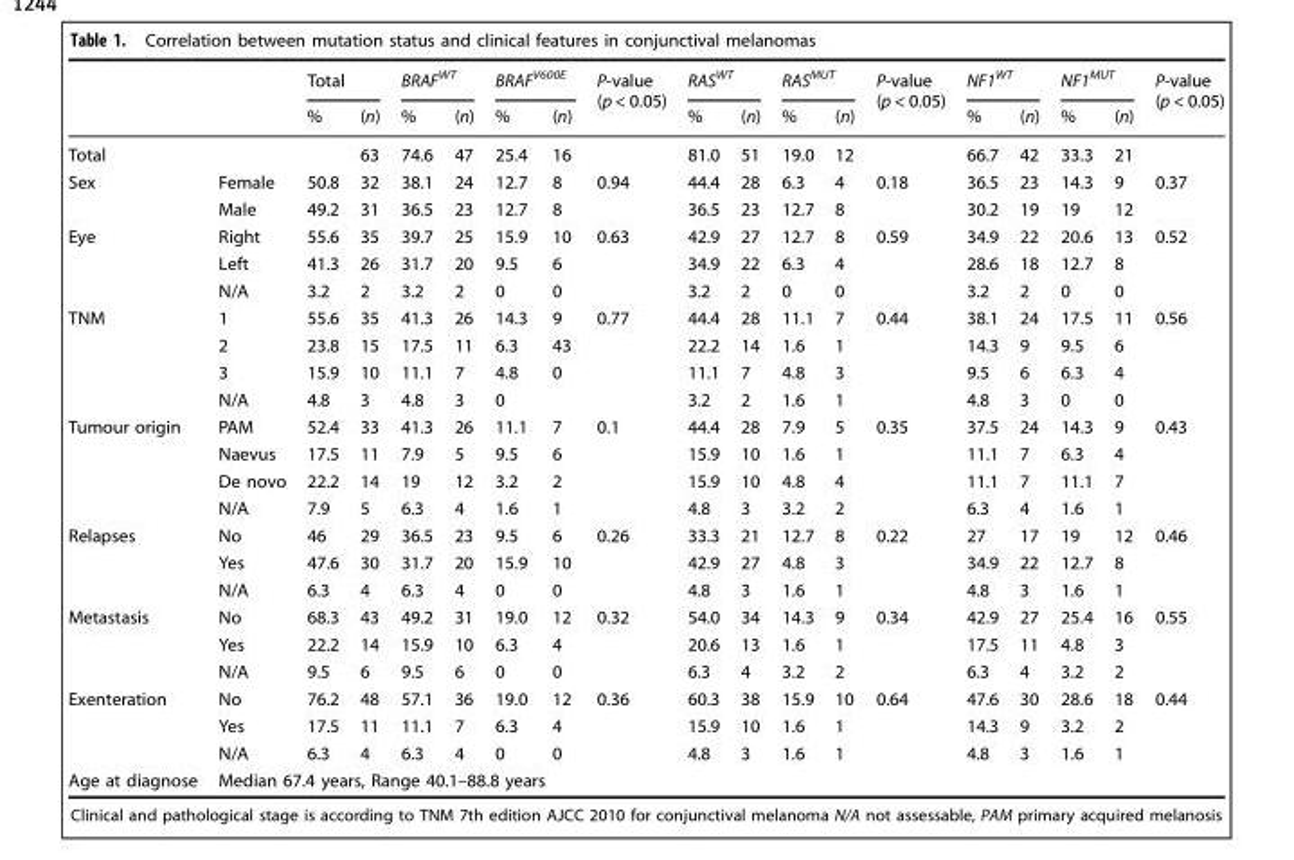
<table><thead><tr><td rowspan="2"></td><td rowspan="2"></td><td colspan="2">Total</td><td colspan="2">BRAF<sup>WT</sup></td><td colspan="2">BRAF<sup>V600E</sup></td><td rowspan="2">P-value (p &lt; 0.05)</td><td colspan="2">RAS<sup>WT</sup></td><td colspan="2">RAS<sup>MUT</sup></td><td rowspan="2">P-value (p &lt; 0.05)</td><td colspan="2">NF1<sup>WT</sup></td><td colspan="2">NF1<sup>MUT</sup></td><td rowspan="2">P-value (p &lt; 0.05)</td></tr><tr><td>%</td><td>(n)</td><td>%</td><td>(n)</td><td>%</td><td>(n)</td><td>%</td><td>(n)</td><td>%</td><td>(n)</td><td>%</td><td>(n)</td><td>%</td><td>(n)</td></tr></thead><tbody><tr><td>Total</td><td></td><td></td><td>63</td><td>74.6</td><td>47</td><td>25.4</td><td>16</td><td></td><td>81.0</td><td>51</td><td>19.0</td><td>12</td><td></td><td>66.7</td><td>42</td><td>33.3</td><td>21</td><td></td></tr><tr><td rowspan="2">Sex</td><td>Female</td><td>50.8</td><td>32</td><td>38.1</td><td>24</td><td>12.7</td><td>8</td><td rowspan="2">0.94</td><td>44.4</td><td>28</td><td>6.3</td><td>4</td><td rowspan="2">0.18</td><td>36.5</td><td>23</td><td>14.3</td><td>9</td><td rowspan="2">0.37</td></tr><tr><td>Male</td><td>49.2</td><td>31</td><td>36.5</td><td>23</td><td>12.7</td><td>8</td><td>36.5</td><td>23</td><td>12.7</td><td>8</td><td>30.2</td><td>19</td><td>19</td><td>12</td></tr><tr><td rowspan="3">Eye</td><td>Right</td><td>55.6</td><td>35</td><td>39.7</td><td>25</td><td>15.9</td><td>10</td><td rowspan="3">0.63</td><td>42.9</td><td>27</td><td>12.7</td><td>8</td><td rowspan="3">0.59</td><td>34.9</td><td>22</td><td>20.6</td><td>13</td><td rowspan="3">0.52</td></tr><tr><td>Left</td><td>41.3</td><td>26</td><td>31.7</td><td>20</td><td>9.5</td><td>6</td><td>34.9</td><td>22</td><td>6.3</td><td>4</td><td>28.6</td><td>18</td><td>12.7</td><td>8</td></tr><tr><td>N/A</td><td>3.2</td><td>2</td><td>3.2</td><td>2</td><td>0</td><td>0</td><td>3.2</td><td>2</td><td>0</td><td>0</td><td>3.2</td><td>2</td><td>0</td><td>0</td></tr><tr><td rowspan="4">TNM</td><td>1</td><td>55.6</td><td>35</td><td>41.3</td><td>26</td><td>14.3</td><td>9</td><td rowspan="4">0.77</td><td>44.4</td><td>28</td><td>11.1</td><td>7</td><td rowspan="4">0.44</td><td>38.1</td><td>24</td><td>17.5</td><td>11</td><td rowspan="4">0.56</td></tr><tr><td>2</td><td>23.8</td><td>15</td><td>17.5</td><td>11</td><td>6.3</td><td>43</td><td>22.2</td><td>14</td><td>1.6</td><td>1</td><td>14.3</td><td>9</td><td>9.5</td><td>6</td></tr><tr><td>3</td><td>15.9</td><td>10</td><td>11.1</td><td>7</td><td>4.8</td><td>0</td><td>11.1</td><td>7</td><td>4.8</td><td>3</td><td>9.5</td><td>6</td><td>6.3</td><td>4</td></tr><tr><td>N/A</td><td>4.8</td><td>3</td><td>4.8</td><td>3</td><td>0</td><td></td><td>3.2</td><td>2</td><td>1.6</td><td>1</td><td>4.8</td><td>3</td><td>0</td><td>0</td></tr><tr><td rowspan="4">Tumour origin</td><td>PAM</td><td>52.4</td><td>33</td><td>41.3</td><td>26</td><td>11.1</td><td>7</td><td rowspan="4">0.1</td><td>44.4</td><td>28</td><td>7.9</td><td>5</td><td rowspan="4">0.35</td><td>37.5</td><td>24</td><td>14.3</td><td>9</td><td rowspan="4">0.43</td></tr><tr><td>Naevus</td><td>17.5</td><td>11</td><td>7.9</td><td>5</td><td>9.5</td><td>6</td><td>15.9</td><td>10</td><td>1.6</td><td>1</td><td>11.1</td><td>7</td><td>6.3</td><td>4</td></tr><tr><td>De novo</td><td>22.2</td><td>14</td><td>19</td><td>12</td><td>3.2</td><td>2</td><td>15.9</td><td>10</td><td>4.8</td><td>4</td><td>11.1</td><td>7</td><td>11.1</td><td>7</td></tr><tr><td>N/A</td><td>7.9</td><td>5</td><td>6.3</td><td>4</td><td>1.6</td><td>1</td><td>4.8</td><td>3</td><td>3.2</td><td>2</td><td>6.3</td><td>4</td><td>1.6</td><td>1</td></tr><tr><td rowspan="3">Relapses</td><td>No</td><td>46</td><td>29</td><td>36.5</td><td>23</td><td>9.5</td><td>6</td><td rowspan="3">0.26</td><td>33.3</td><td>21</td><td>12.7</td><td>8</td><td rowspan="3">0.22</td><td>27</td><td>17</td><td>19</td><td>12</td><td rowspan="3">0.46</td></tr><tr><td>Yes</td><td>47.6</td><td>30</td><td>31.7</td><td>20</td><td>15.9</td><td>10</td><td>42.9</td><td>27</td><td>4.8</td><td>3</td><td>34.9</td><td>22</td><td>12.7</td><td>8</td></tr><tr><td>N/A</td><td>6.3</td><td>4</td><td>6.3</td><td>4</td><td>0</td><td>0</td><td>4.8</td><td>3</td><td>1.6</td><td>1</td><td>4.8</td><td>3</td><td>1.6</td><td>1</td></tr><tr><td rowspan="3">Metastasis</td><td>No</td><td>68.3</td><td>43</td><td>49.2</td><td>31</td><td>19.0</td><td>12</td><td rowspan="3">0.32</td><td>54.0</td><td>34</td><td>14.3</td><td>9</td><td rowspan="3">0.34</td><td>42.9</td><td>27</td><td>25.4</td><td>16</td><td rowspan="3">0.55</td></tr><tr><td>Yes</td><td>22.2</td><td>14</td><td>15.9</td><td>10</td><td>6.3</td><td>4</td><td>20.6</td><td>13</td><td>1.6</td><td>1</td><td>17.5</td><td>11</td><td>4.8</td><td>3</td></tr><tr><td>N/A</td><td>9.5</td><td>6</td><td>9.5</td><td>6</td><td>0</td><td>0</td><td>6.3</td><td>4</td><td>3.2</td><td>2</td><td>6.3</td><td>4</td><td>3.2</td><td>2</td></tr><tr><td rowspan="3">Exenteration</td><td>No</td><td>76.2</td><td>48</td><td>57.1</td><td>36</td><td>19.0</td><td>12</td><td rowspan="3">0.36</td><td>60.3</td><td>38</td><td>15.9</td><td>10</td><td rowspan="3">0.64</td><td>47.6</td><td>30</td><td>28.6</td><td>18</td><td rowspan="3">0.44</td></tr><tr><td>Yes</td><td>17.5</td><td>11</td><td>11.1</td><td>7</td><td>6.3</td><td>4</td><td>15.9</td><td>10</td><td>1.6</td><td>1</td><td>14.3</td><td>9</td><td>3.2</td><td>2</td></tr><tr><td>N/A</td><td>6.3</td><td>4</td><td>6.3</td><td>4</td><td>0</td><td>0</td><td>4.8</td><td>3</td><td>1.6</td><td>1</td><td>4.8</td><td>3</td><td>1.6</td><td>1</td></tr><tr><td>Age at diagnose</td><td colspan="18">Median 67.4 years, Range 40.1–88.8 years</td></tr></tbody></table>